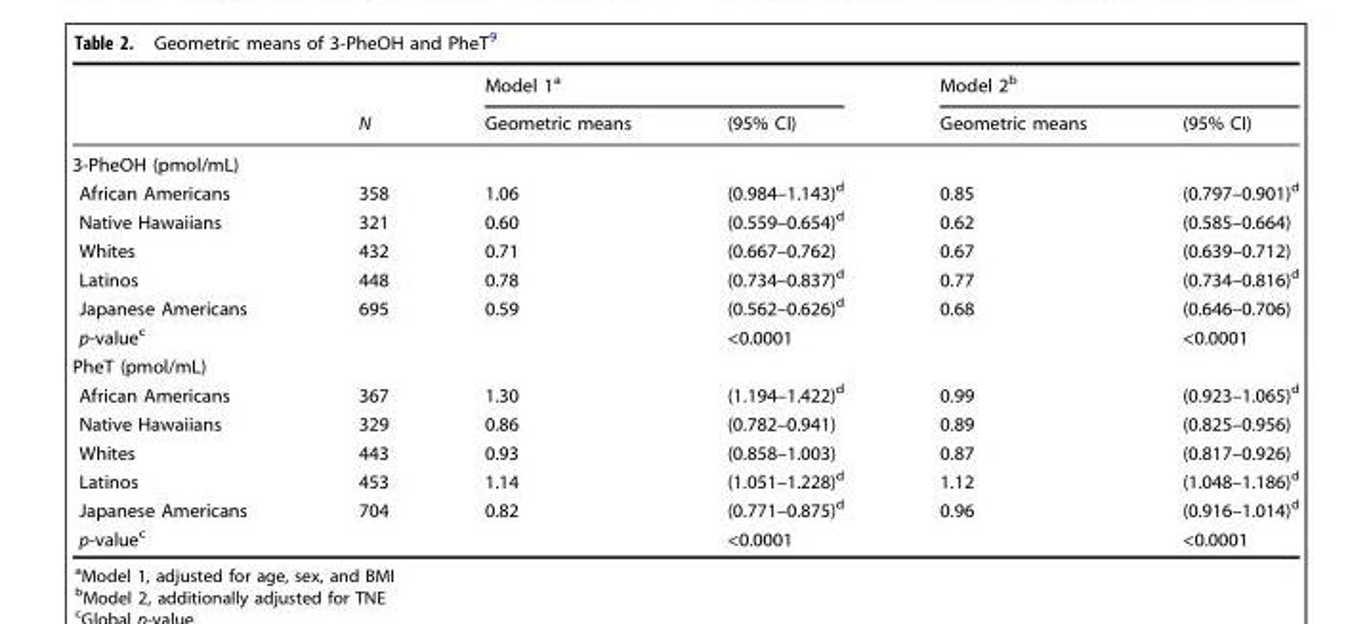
<table><thead><tr><td rowspan="2"></td><td rowspan="2">N</td><td colspan="2">Model 1<sup>a</sup></td><td colspan="2">Model 2<sup>b</sup></td></tr><tr><td>Geometric means</td><td>(95% CI)</td><td>Geometric means</td><td>(95% CI)</td></tr></thead><tbody><tr><td colspan="6">3-PheOH (pmol/mL)</td></tr><tr><td>African Americans</td><td>358</td><td>1.06</td><td>(0.984–1.143)<sup>d</sup></td><td>0.85</td><td>(0.797–0.901)<sup>d</sup></td></tr><tr><td>Native Hawaiians</td><td>321</td><td>0.60</td><td>(0.559–0.654)<sup>d</sup></td><td>0.62</td><td>(0.585–0.664)</td></tr><tr><td>Whites</td><td>432</td><td>0.71</td><td>(0.667–0.762)</td><td>0.67</td><td>(0.639–0.712)</td></tr><tr><td>Latinos</td><td>448</td><td>0.78</td><td>(0.734–0.837)<sup>d</sup></td><td>0.77</td><td>(0.734–0.816)<sup>d</sup></td></tr><tr><td>Japanese Americans</td><td>695</td><td>0.59</td><td>(0.562–0.626)<sup>d</sup></td><td>0.68</td><td>(0.646–0.706)</td></tr><tr><td>p-value<sup>c</sup></td><td></td><td></td><td>&lt;0.0001</td><td></td><td>&lt;0.0001</td></tr><tr><td colspan="6">PheT (pmol/mL)</td></tr><tr><td>African Americans</td><td>367</td><td>1.30</td><td>(1.194–1.422)<sup>d</sup></td><td>0.99</td><td>(0.923–1.065)<sup>d</sup></td></tr><tr><td>Native Hawaiians</td><td>329</td><td>0.86</td><td>(0.782–0.941)</td><td>0.89</td><td>(0.825–0.956)</td></tr><tr><td>Whites</td><td>443</td><td>0.93</td><td>(0.858–1.003)</td><td>0.87</td><td>(0.817–0.926)</td></tr><tr><td>Latinos</td><td>453</td><td>1.14</td><td>(1.051–1.228)<sup>d</sup></td><td>1.12</td><td>(1.048–1.186)<sup>d</sup></td></tr><tr><td>Japanese Americans</td><td>704</td><td>0.82</td><td>(0.771–0.875)<sup>d</sup></td><td>0.96</td><td>(0.916–1.014)<sup>d</sup></td></tr><tr><td>p-value<sup>c</sup></td><td></td><td></td><td>&lt;0.0001</td><td></td><td>&lt;0.0001</td></tr></tbody></table>